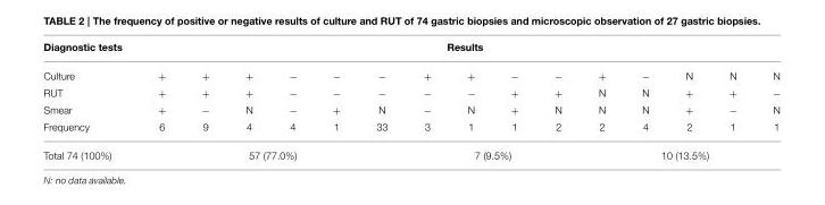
<table><thead><tr><td rowspan="2">Diagnostic tests Culture</td><td colspan="15">Results</td></tr><tr><td>+</td><td>+</td><td>+</td><td>−</td><td>−</td><td>−</td><td>+</td><td>+</td><td>−</td><td>−</td><td>+</td><td>−</td><td>N</td><td>N</td><td>N</td></tr></thead><tbody><tr><td>RUT</td><td>+</td><td>+</td><td>+</td><td>−</td><td>−</td><td>−</td><td>−</td><td>−</td><td>+</td><td>+</td><td>N</td><td>N</td><td>+</td><td>+</td><td>−</td></tr><tr><td>Smear</td><td>+</td><td>−</td><td>N</td><td>−</td><td>+</td><td>N</td><td>−</td><td>N</td><td>+</td><td>N</td><td>N</td><td>N</td><td>+</td><td>−</td><td>N</td></tr><tr><td>Frequency</td><td>6</td><td>9</td><td>4</td><td>4</td><td>1</td><td>33</td><td>3</td><td>1</td><td>1</td><td>2</td><td>2</td><td>4</td><td>2</td><td>1</td><td>1</td></tr><tr><td>Total 74 (100%)</td><td colspan="6">57 (77.0%)</td><td colspan="4">7 (9.5%)</td><td colspan="5">10 (13.5%)</td></tr></tbody></table>